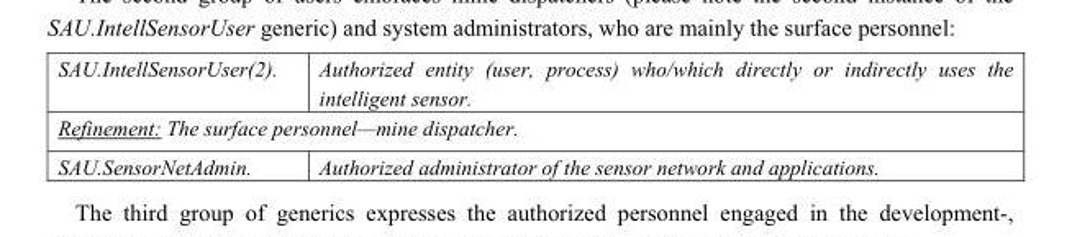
<table><tbody><tr><td>SAU.IntellSensorUser(2).</td><td>Authorized entity (user, process) who/which directly or indirectly uses the intelligent sensor.</td></tr><tr><td colspan="2">Refinement: The surface personnel—mine dispatcher.</td></tr><tr><td>SAU.SensorNetAdmin.</td><td>Authorized administrator of the sensor network and applications.</td></tr></tbody></table>